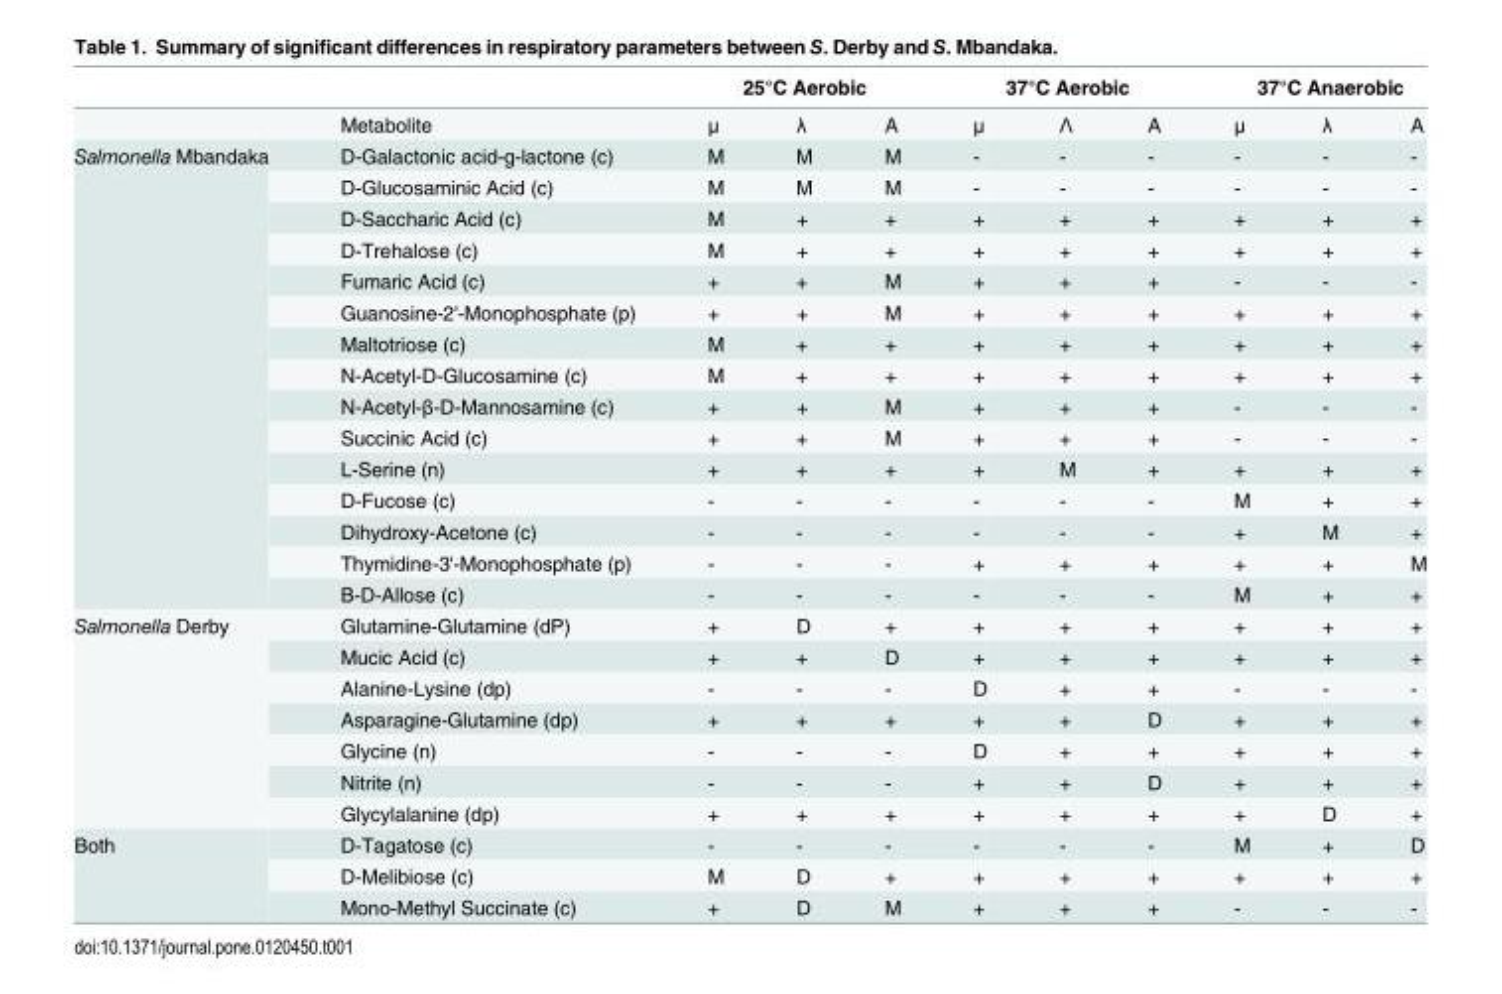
<table><thead><tr><td rowspan="2"></td><td rowspan="2">Metabolite</td><td colspan="3">25°C Aerobic</td><td colspan="3">37°C Aerobic</td><td colspan="3">37°C Anaerobic</td></tr><tr><td>μ</td><td>λ</td><td>A</td><td>μ</td><td>Λ</td><td>A</td><td>μ</td><td>λ</td><td>A</td></tr></thead><tbody><tr><td rowspan="15">Salmonella Mbandaka</td><td>D-Galactonic acid-g-lactone (c)</td><td>M</td><td>M</td><td>M</td><td>-</td><td>-</td><td>-</td><td>-</td><td>-</td><td>-</td></tr><tr><td>D-Glucosaminic Acid (c)</td><td>M</td><td>M</td><td>M</td><td>-</td><td>-</td><td>-</td><td>-</td><td>-</td><td>-</td></tr><tr><td>D-Saccharic Acid (c)</td><td>M</td><td>+</td><td>+</td><td>+</td><td>+</td><td>+</td><td>+</td><td>+</td><td>+</td></tr><tr><td>D-Trehalose (c)</td><td>M</td><td>+</td><td>+</td><td>+</td><td>+</td><td>+</td><td>+</td><td>+</td><td>+</td></tr><tr><td>Fumaric Acid (c)</td><td>+</td><td>+</td><td>M</td><td>+</td><td>+</td><td>+</td><td>-</td><td>-</td><td>-</td></tr><tr><td>Guanosine-2&#x27;-Monophosphate (p)</td><td>+</td><td>+</td><td>M</td><td>+</td><td>+</td><td>+</td><td>+</td><td>+</td><td>+</td></tr><tr><td>Maltotriose (c)</td><td>M</td><td>+</td><td>+</td><td>+</td><td>+</td><td>+</td><td>+</td><td>+</td><td>+</td></tr><tr><td>N-Acetyl-D-Glucosamine (c)</td><td>M</td><td>+</td><td>+</td><td>+</td><td>+</td><td>+</td><td>+</td><td>+</td><td>+</td></tr><tr><td>N-Acetyl-β-D-Mannosamine (c)</td><td>+</td><td>+</td><td>M</td><td>+</td><td>+</td><td>+</td><td>-</td><td>-</td><td>-</td></tr><tr><td>Succinic Acid (c)</td><td>+</td><td>+</td><td>M</td><td>+</td><td>+</td><td>+</td><td>-</td><td>-</td><td>-</td></tr><tr><td>L-Serine (n)</td><td>+</td><td>+</td><td>+</td><td>+</td><td>M</td><td>+</td><td>+</td><td>+</td><td>+</td></tr><tr><td>D-Fucose (c)</td><td>-</td><td>-</td><td>-</td><td>-</td><td>-</td><td>-</td><td>M</td><td>+</td><td>+</td></tr><tr><td>Dihydroxy-Acetone (c)</td><td>-</td><td>-</td><td>-</td><td>-</td><td>-</td><td>-</td><td>+</td><td>M</td><td>+</td></tr><tr><td>Thymidine-3&#x27;-Monophosphate (p)</td><td>-</td><td>-</td><td>-</td><td>+</td><td>+</td><td>+</td><td>+</td><td>+</td><td>M</td></tr><tr><td>B-D-Allose (c)</td><td>-</td><td>-</td><td>-</td><td>-</td><td>-</td><td>-</td><td>M</td><td>+</td><td>+</td></tr><tr><td rowspan="7">Salmonella Derby</td><td>Glutamine-Glutamine (dP)</td><td>+</td><td>D</td><td>+</td><td>+</td><td>+</td><td>+</td><td>+</td><td>+</td><td>+</td></tr><tr><td>Mucic Acid (c)</td><td>+</td><td>+</td><td>D</td><td>+</td><td>+</td><td>+</td><td>+</td><td>+</td><td>+</td></tr><tr><td>Alanine-Lysine (dp)</td><td>-</td><td>-</td><td>-</td><td>D</td><td>+</td><td>+</td><td>-</td><td>-</td><td>-</td></tr><tr><td>Asparagine-Glutamine (dp)</td><td>+</td><td>+</td><td>+</td><td>+</td><td>+</td><td>D</td><td>+</td><td>+</td><td>+</td></tr><tr><td>Glycine (n)</td><td>-</td><td>-</td><td>-</td><td>D</td><td>+</td><td>+</td><td>+</td><td>+</td><td>+</td></tr><tr><td>Nitrite (n)</td><td>-</td><td>-</td><td>-</td><td>+</td><td>+</td><td>D</td><td>+</td><td>+</td><td>+</td></tr><tr><td>Glycylalanine (dp)</td><td>+</td><td>+</td><td>+</td><td>+</td><td>+</td><td>+</td><td>+</td><td>D</td><td>+</td></tr><tr><td rowspan="3">Both</td><td>D-Tagatose (c)</td><td>-</td><td>-</td><td>-</td><td>-</td><td>-</td><td>-</td><td>M</td><td>+</td><td>D</td></tr><tr><td>D-Melibiose (c)</td><td>M</td><td>D</td><td>+</td><td>+</td><td>+</td><td>+</td><td>+</td><td>+</td><td>+</td></tr><tr><td>Mono-Methyl Succinate (c)</td><td>+</td><td>D</td><td>M</td><td>+</td><td>+</td><td>+</td><td>-</td><td>-</td><td>-</td></tr></tbody></table>